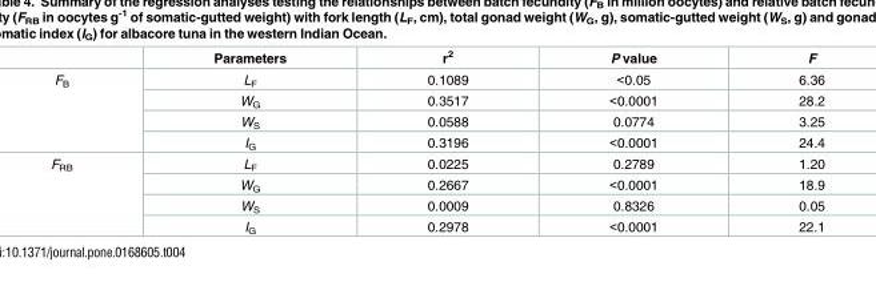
<table><thead><tr><td></td><td>Parameters</td><td>r<sup>2</sup></td><td>P value</td><td>F</td></tr></thead><tbody><tr><td rowspan="4">F<sub>B</sub></td><td>L<sub>F</sub></td><td>0.1089</td><td>&lt;0.05</td><td>6.36</td></tr><tr><td>W<sub>G</sub></td><td>0.3517</td><td>&lt;0.0001</td><td>28.2</td></tr><tr><td>W<sub>S</sub></td><td>0.0588</td><td>0.0774</td><td>3.25</td></tr><tr><td>I<sub>G</sub></td><td>0.3196</td><td>&lt;0.0001</td><td>24.4</td></tr><tr><td rowspan="4">F<sub>RB</sub></td><td>L<sub>F</sub></td><td>0.0225</td><td>0.2789</td><td>1.20</td></tr><tr><td>W<sub>G</sub></td><td>0.2667</td><td>&lt;0.0001</td><td>18.9</td></tr><tr><td>W<sub>S</sub></td><td>0.0009</td><td>0.8326</td><td>0.05</td></tr><tr><td>I<sub>G</sub></td><td>0.2978</td><td>&lt;0.0001</td><td>22.1</td></tr></tbody></table>